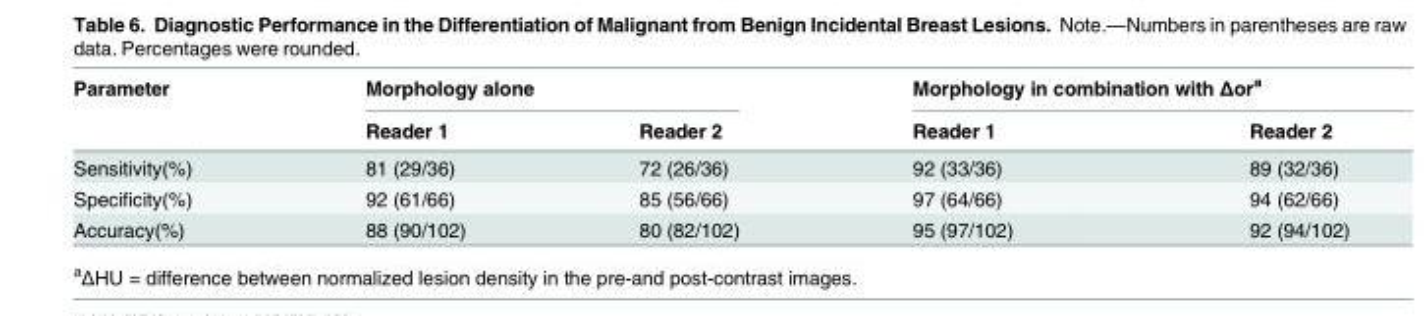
<table><thead><tr><td rowspan="2">Parameter</td><td colspan="2">Morphology alone</td><td colspan="2">Morphology in combination with Δor<sup>a</sup></td></tr><tr><td>Reader 1</td><td>Reader 2</td><td>Reader 1</td><td>Reader 2</td></tr></thead><tbody><tr><td>Sensitivity(%)</td><td>81 (29/36)</td><td>72 (26/36)</td><td>92 (33/36)</td><td>89 (32/36)</td></tr><tr><td>Specificity(%)</td><td>92 (61/66)</td><td>85 (56/66)</td><td>97 (64/66)</td><td>94 (62/66)</td></tr><tr><td>Accuracy(%)</td><td>88 (90/102)</td><td>80 (82/102)</td><td>95 (97/102)</td><td>92 (94/102)</td></tr></tbody></table>